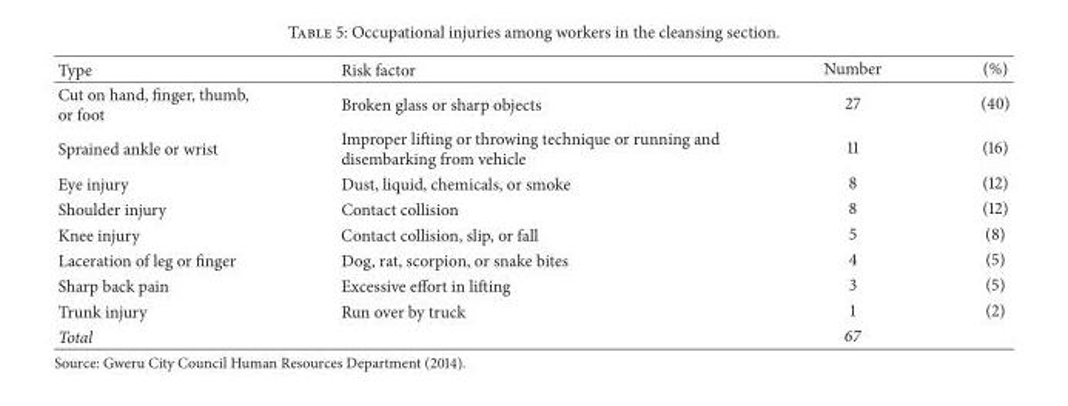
<table><thead><tr><td>Type</td><td>Risk factor</td><td>Number</td><td>(%)</td></tr></thead><tbody><tr><td>Cut on hand, finger, thumb, or foot</td><td>Broken glass or sharp objects</td><td>27</td><td>(40)</td></tr><tr><td>Sprained ankle or wrist</td><td>Improper lifting or throwing technique or running and disembarking from vehicle</td><td>11</td><td>(16)</td></tr><tr><td>Eye injury</td><td>Dust, liquid, chemicals, or smoke</td><td>8</td><td>(12)</td></tr><tr><td>Shoulder injury</td><td>Contact collision</td><td>8</td><td>(12)</td></tr><tr><td>Knee injury</td><td>Contact collision, slip, or fall</td><td>5</td><td>(8)</td></tr><tr><td>Laceration of leg or finger</td><td>Dog, rat, scorpion, or snake bites</td><td>4</td><td>(5)</td></tr><tr><td>Sharp back pain</td><td>Excessive effort in lifting</td><td>3</td><td>(5)</td></tr><tr><td>Trunk injury</td><td>Run over by truck</td><td>1</td><td>(2)</td></tr><tr><td>Total</td><td></td><td>67</td><td></td></tr></tbody></table>